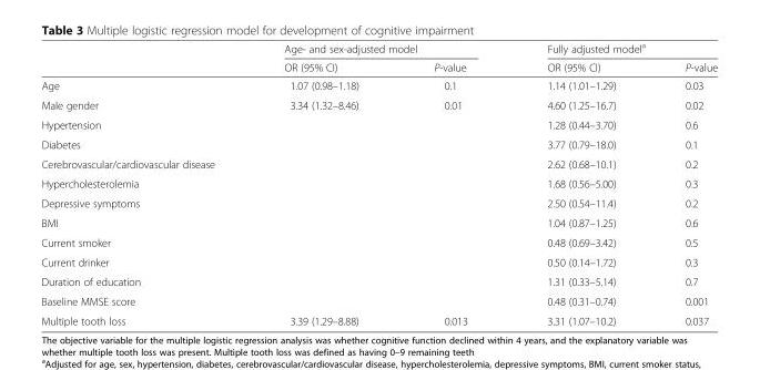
<table><thead><tr><td rowspan="2"></td><td colspan="2">Age- and sex-adjusted model</td><td colspan="2">Fully adjusted model<sup>a</sup></td></tr><tr><td>OR (95% CI)</td><td>P-value</td><td>OR (95% CI)</td><td>P-value</td></tr></thead><tbody><tr><td>Age</td><td>1.07 (0.98–1.18)</td><td>0.1</td><td>1.14 (1.01–1.29)</td><td>0.03</td></tr><tr><td>Male gender</td><td>3.34 (1.32–8.46)</td><td>0.01</td><td>4.60 (1.25–16.7)</td><td>0.02</td></tr><tr><td>Hypertension</td><td></td><td></td><td>1.28 (0.44–3.70)</td><td>0.6</td></tr><tr><td>Diabetes</td><td></td><td></td><td>3.77 (0.79–18.0)</td><td>0.1</td></tr><tr><td>Cerebrovascular/cardiovascular disease</td><td></td><td></td><td>2.62 (0.68–10.1)</td><td>0.2</td></tr><tr><td>Hypercholesterolemia</td><td></td><td></td><td>1.68 (0.56–5.00)</td><td>0.3</td></tr><tr><td>Depressive symptoms</td><td></td><td></td><td>2.50 (0.54–11.4)</td><td>0.2</td></tr><tr><td>BMI</td><td></td><td></td><td>1.04 (0.87–1.25)</td><td>0.6</td></tr><tr><td>Current smoker</td><td></td><td></td><td>0.48 (0.69–3.42)</td><td>0.5</td></tr><tr><td>Current drinker</td><td></td><td></td><td>0.50 (0.14–1.72)</td><td>0.3</td></tr><tr><td>Duration of education</td><td></td><td></td><td>1.31 (0.33–5.14)</td><td>0.7</td></tr><tr><td>Baseline MMSE score</td><td></td><td></td><td>0.48 (0.31–0.74)</td><td>0.001</td></tr><tr><td>Multiple tooth loss</td><td>3.39 (1.29–8.88)</td><td>0.013</td><td>3.31 (1.07–10.2)</td><td>0.037</td></tr></tbody></table>